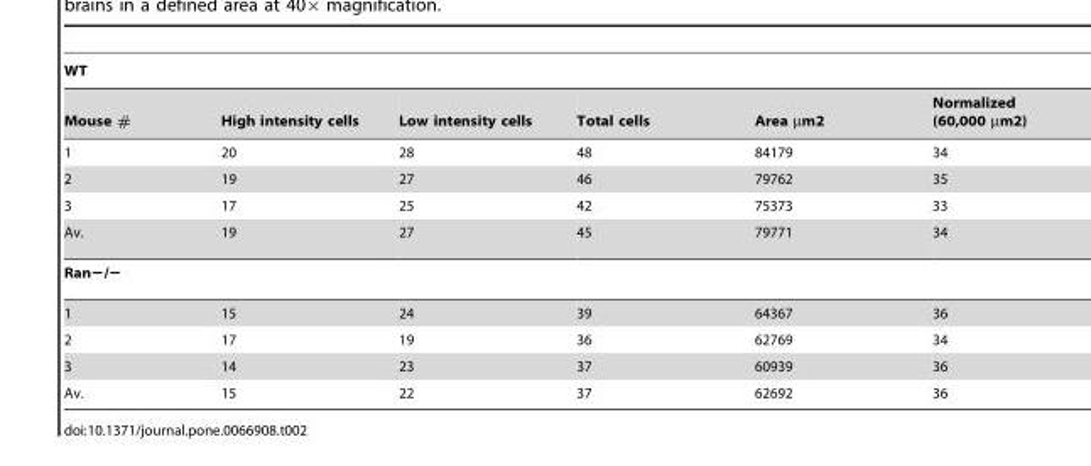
<table><thead><tr><td colspan="6">WT</td></tr><tr><td>Mouse #</td><td>High intensity cells</td><td>Low intensity cells</td><td>Total cells</td><td>Area µm2</td><td>Normalized (60,000 µm2)</td></tr></thead><tbody><tr><td>1</td><td>20</td><td>28</td><td>48</td><td>84179</td><td>34</td></tr><tr><td>2</td><td>19</td><td>27</td><td>46</td><td>79762</td><td>35</td></tr><tr><td>3</td><td>17</td><td>25</td><td>42</td><td>75373</td><td>33</td></tr><tr><td>Av.</td><td>19</td><td>27</td><td>45</td><td>79771</td><td>34</td></tr><tr><td colspan="6">Ran−/−</td></tr><tr><td>1</td><td>15</td><td>24</td><td>39</td><td>64367</td><td>36</td></tr><tr><td>2</td><td>17</td><td>19</td><td>36</td><td>62769</td><td>34</td></tr><tr><td>3</td><td>14</td><td>23</td><td>37</td><td>60939</td><td>36</td></tr><tr><td>Av.</td><td>15</td><td>22</td><td>37</td><td>62692</td><td>36</td></tr></tbody></table>